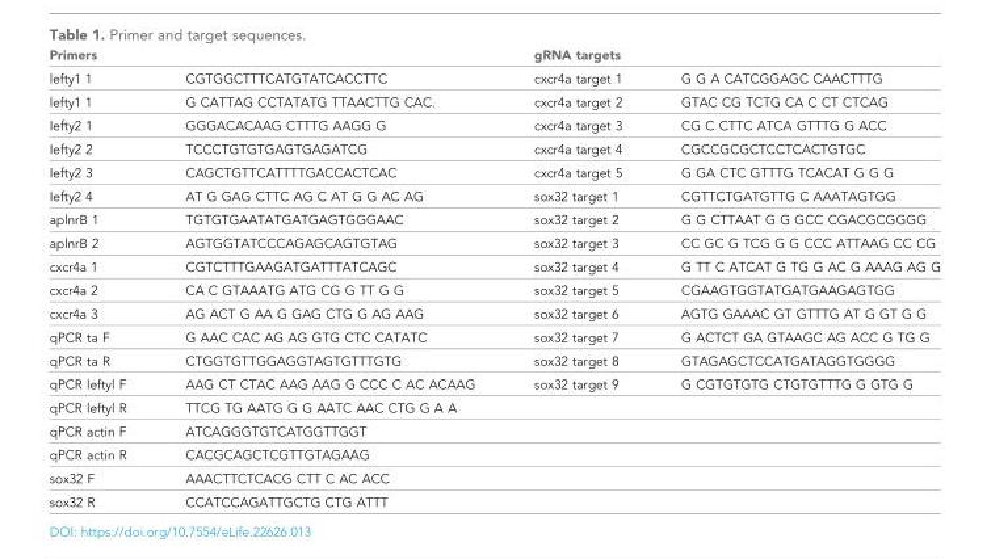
<table><thead><tr><td colspan="2">Primers</td><td colspan="2">gRNA targets</td></tr><tr><td>lefty1 1</td><td>CGTGGCTTTCATGTATCACCTTC</td><td>cxcr4a target 1</td><td>G G A CATCGGAGC CAACTTTG</td></tr></thead><tbody><tr><td>lefty1 1</td><td>G CATTAG CCTATATG TTAACTTG CAC.</td><td>cxcr4a target 2</td><td>GTAC CG TCTG CA C CT CTCAG</td></tr><tr><td>Iefty2 1</td><td>GGGACACAAG CTTTG AAGG G</td><td>cxcr4a target 3</td><td>CG C CTTC ATCA GTTTG G ACC</td></tr><tr><td>Iefty2 2</td><td>TCCCTGTGTGAGTGAGATCG</td><td>cxcr4a target 4</td><td>CGCCGCGCTCCTCACTGTGC</td></tr><tr><td>Iefty2 3</td><td>CAGCTGTTCATTTTGACCACTCAC</td><td>cxcr4a target 5</td><td>G GA CTC GTTTG TCACAT G G G</td></tr><tr><td>Iefty2 4</td><td>AT G GAG CTTC AG C AT G G AC AG</td><td>sox32 target 1</td><td>CGTTCTGATGTTG C AAATAGTGG</td></tr><tr><td>aplnrB 1</td><td>TGTGTGAATATGATGAGTGGGAAC</td><td>sox32 target 2</td><td>G G CTTAAT G G GCC CGACGCGGGG</td></tr><tr><td>aplnrB 2</td><td>AGTGGTATCCCAGAGCAGTGTAG</td><td>sox32 target 3</td><td>CC GC G TCG G G CCC ATTAAG CC CG</td></tr><tr><td>cxcr4a 1</td><td>CGTCTTTGAAGATGATTTATCAGC</td><td>sox32 target 4</td><td>G TT C ATCAT G TG G AC G AAAG AG G</td></tr><tr><td>cxcr4a 2</td><td>CA C GTAAATG ATG CG G TT G G</td><td>sox32 target 5</td><td>CGAAGTGGTATGATGAAGAGTGG</td></tr><tr><td>cxcr4a 3</td><td>AG ACT G AA G GAG CTG G AG AAG</td><td>sox32 target 6</td><td>AGTG GAAAC GT GTTTG AT G GT G G</td></tr><tr><td>qPCR ta F</td><td>G AAC CAC AG AG GTG CTC CATATC</td><td>sox32 target 7</td><td>G ACTCT GA GTAAGC AG ACC G TG G</td></tr><tr><td>qPCR ta R</td><td>CTGGTGTTGGAGGTAGTGTTTGTG</td><td>sox32 target 8</td><td>GTAGAGCTCCATGATAGGTGGGG</td></tr><tr><td>qPCR leftyl F</td><td>AAG CT CTAC AAG AAG G CCC C AC ACAAG</td><td>sox32 target 9</td><td>G CGTGTGTG CTGTGTTTG G GTG G</td></tr><tr><td>qPCR leftyl R</td><td>TTCG TG AATG G G AATC AAC CTG G A A</td><td></td><td></td></tr><tr><td>qPCR actin F</td><td>ATCAGGGTGTCATGGTTGGT</td><td></td><td></td></tr><tr><td>qPCR actin R</td><td>CACGCAGCTCGTTGTAGAAG</td><td></td><td></td></tr><tr><td>sox32 F</td><td>AAACTTCTCACG CTT C AC ACC</td><td></td><td></td></tr><tr><td>sox32 R</td><td>CCATCCAGATTGCTG CTG ATTT</td><td></td><td></td></tr></tbody></table>